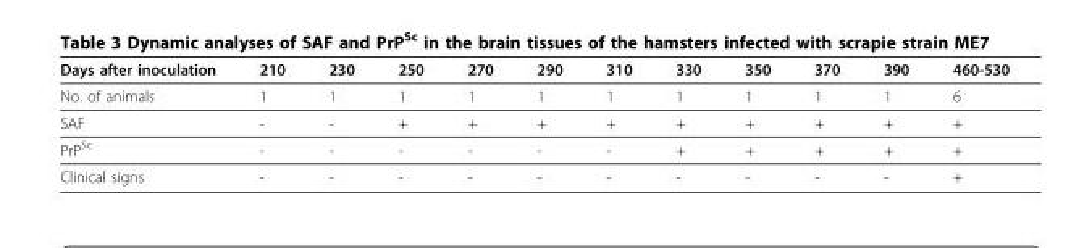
<table><thead><tr><td>Days after inoculation</td><td>210</td><td>230</td><td>250</td><td>270</td><td>290</td><td>310</td><td>330</td><td>350</td><td>370</td><td>390</td><td>460-530</td></tr></thead><tbody><tr><td>No. of animals</td><td>1</td><td>1</td><td>1</td><td>1</td><td>1</td><td>1</td><td>1</td><td>1</td><td>1</td><td>1</td><td>6</td></tr><tr><td>SAF</td><td>-</td><td>-</td><td>+</td><td>+</td><td>+</td><td>+</td><td>+</td><td>+</td><td>+</td><td>+</td><td>+</td></tr><tr><td>PrP<sup>Sc</sup></td><td>-</td><td>-</td><td>-</td><td>-</td><td>-</td><td>-</td><td>+</td><td>+</td><td>+</td><td>+</td><td>+</td></tr><tr><td>Clinical signs</td><td>-</td><td>-</td><td>-</td><td>-</td><td>-</td><td>-</td><td>-</td><td>-</td><td>-</td><td>-</td><td>+</td></tr></tbody></table>